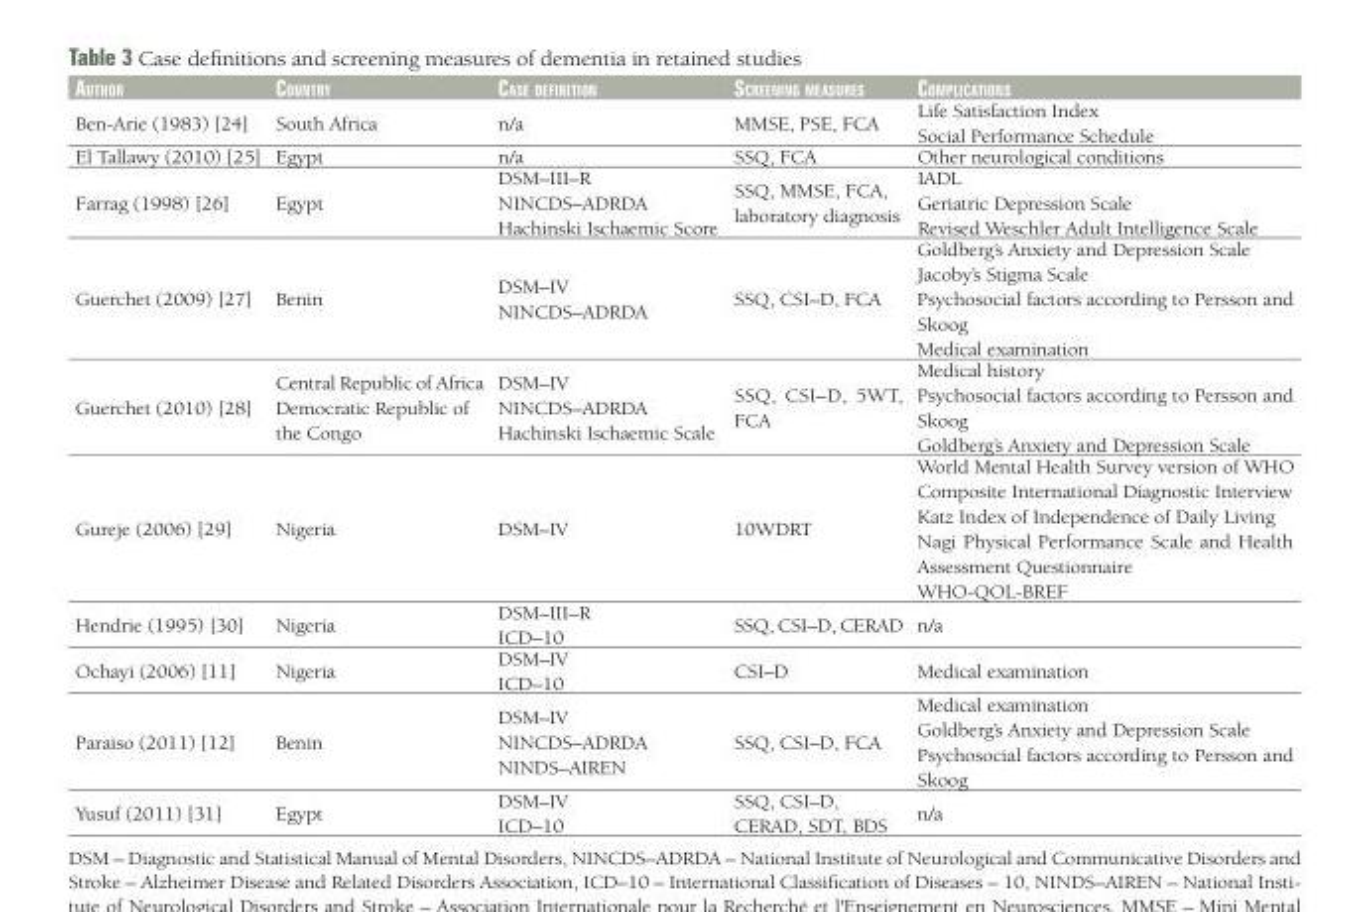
<table><thead><tr><td>author</td><td>CouNtry</td><td>Case defiNitioN</td><td>sCreeNiNg measures</td><td>CompliCatioNs</td></tr></thead><tbody><tr><td>Ben-Arie (1983) [24]</td><td>South Africa</td><td>n/a</td><td>MMSE, PSE, FCA</td><td>Life Satisfaction Index Social Performance Schedule</td></tr><tr><td>El Tallawy (2010) [25]</td><td>Egypt</td><td>n/a</td><td>SSQ, FCA</td><td>Other neurological conditions</td></tr><tr><td>Farrag (1998) [26]</td><td>Egypt</td><td>DSM–III–R NINCDS–ADRDA Hachinski Ischaemic Score</td><td>SSQ, MMSE, FCA, laboratory diagnosis</td><td>IADL Geriatric Depression Scale Revised Weschler Adult Intelligence Scale</td></tr><tr><td>Guerchet (2009) [27]</td><td>Benin</td><td>DSM–IV NINCDS–ADRDA</td><td>SSQ, CSI–D, FCA</td><td>Goldberg’s Anxiety and Depression Scale Jacoby’s Stigma Scale Psychosocial factors according to Persson and Skoog Medical examination</td></tr><tr><td>Guerchet (2010) [28]</td><td>Central Republic of Africa Democratic Republic of the Congo</td><td>DSM–IV NINCDS–ADRDA Hachinski Ischaemic Scale</td><td>SSQ, CSI–D, 5WT, FCA</td><td>Medical history Psychosocial factors according to Persson and Skoog Goldberg’s Anxiety and Depression Scale</td></tr><tr><td>Gureje (2006) [29]</td><td>Nigeria</td><td>DSM–IV</td><td>10WDRT</td><td>World Mental Health Survey version of WHO Composite International Diagnostic Interview Katz Index of Independence of Daily Living Nagi Physical Performance Scale and Health Assessment Questionnaire WHO-QOL-BREF</td></tr><tr><td>Hendrie (1995) [30]</td><td>Nigeria</td><td>DSM–III–R ICD–10</td><td>SSQ, CSI–D, CERAD</td><td>n/a</td></tr><tr><td>Ochayi (2006) [11]</td><td>Nigeria</td><td>DSM–IV ICD–10</td><td>CSI–D</td><td>Medical examination</td></tr><tr><td>Paraiso (2011) [12]</td><td>Benin</td><td>DSM–IV NINCDS–ADRDA NINDS–AIREN</td><td>SSQ, CSI–D, FCA</td><td>Medical examination Goldberg’s Anxiety and Depression Scale Psychosocial factors according to Persson and Skoog</td></tr><tr><td>Yusuf (2011) [31]</td><td>Egypt</td><td>DSM–IV ICD–10</td><td>SSQ, CSI–D, CERAD, SDT, BDS</td><td>n/a</td></tr></tbody></table>